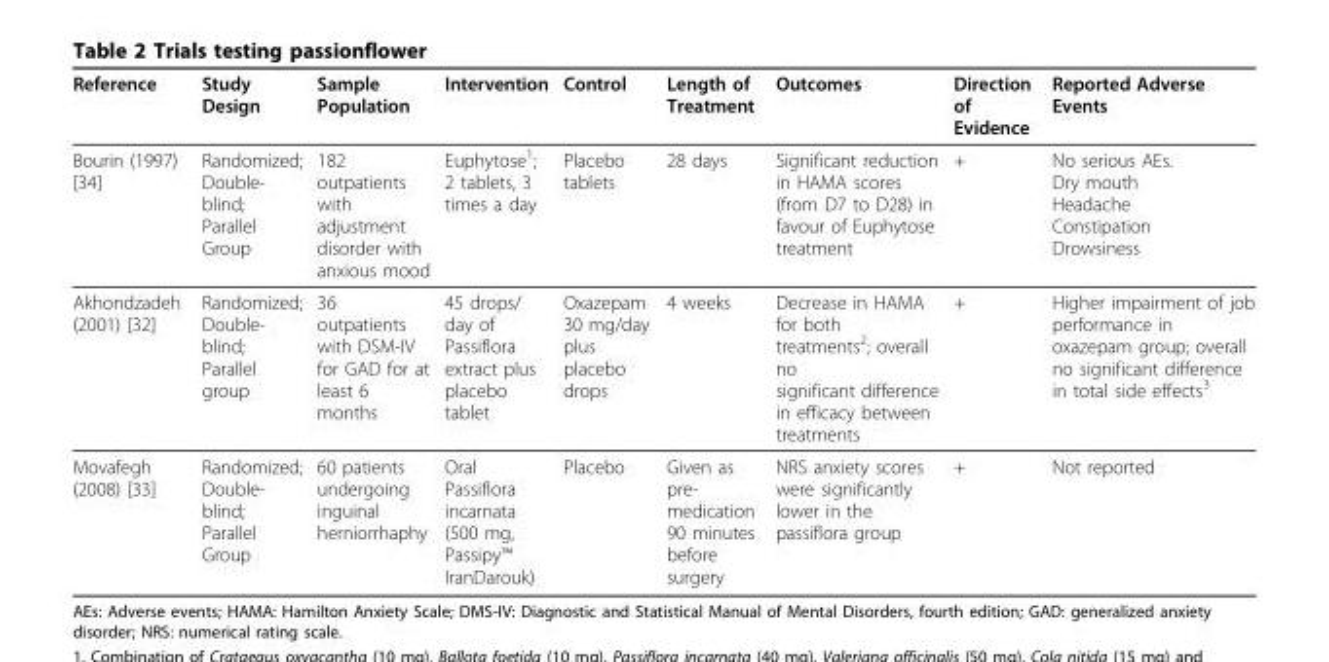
<table><thead><tr><td>Reference</td><td>Study Design</td><td>Sample Population</td><td>Intervention</td><td>Control</td><td>Length of Treatment</td><td>Outcomes</td><td>Direction of Evidence</td><td>Reported Adverse Events</td></tr></thead><tbody><tr><td>Bourin (1997) [34]</td><td>Randomized; Double- blind; Parallel Group</td><td>182 outpatients with adjustment disorder with anxious mood</td><td>Euphytose<sup>1</sup>; 2 tablets, 3 times a day</td><td>Placebo tablets</td><td>28 days</td><td>Significant reduction in HAMA scores (from D7 to D28) in favour of Euphytose treatment</td><td>+</td><td>No serious AEs. Dry mouth Headache Constipation Drowsiness</td></tr><tr><td>Akhondzadeh (2001) [32]</td><td>Randomized; Double- blind; Parallel group</td><td>36 outpatients with DSM-IV for GAD for at least 6 months</td><td>45 drops/ day of Passiflora extract plus placebo tablet</td><td>Oxazepam 30 mg/day plus placebo drops</td><td>4 weeks</td><td>Decrease in HAMA for both treatments<sup>2</sup>; overall no significant difference in efficacy between treatments</td><td>+</td><td>Higher impairment of job performance in oxazepam group; overall no significant difference in total side effects<sup>3</sup></td></tr><tr><td>Movafegh (2008) [33]</td><td>Randomized; Double- blind; Parallel Group</td><td>60 patients undergoing inguinal herniorrhaphy</td><td>Oral Passiflora incarnata (500 mg, Passipy™ IranDarouk)</td><td>Placebo</td><td>Given as pre- medication 90 minutes before surgery</td><td>NRS anxiety scores were significantly lower in the passiflora group</td><td>+</td><td>Not reported</td></tr></tbody></table>